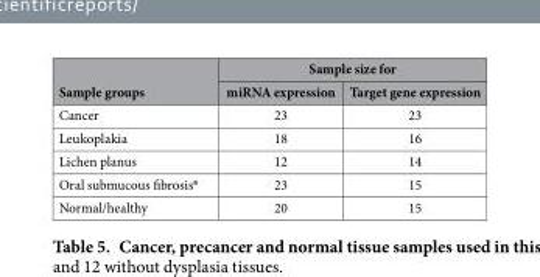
<table><thead><tr><td rowspan="2">Sample groups</td><td colspan="2">Sample size for</td></tr><tr><td>miRNA expression</td><td>Target gene expression</td></tr></thead><tbody><tr><td>Cancer</td><td>23</td><td>23</td></tr><tr><td>Leukoplakia</td><td>18</td><td>16</td></tr><tr><td>Lichen planus</td><td>12</td><td>14</td></tr><tr><td>Oral submucous fibrosis<sup>a</sup></td><td>23</td><td>15</td></tr><tr><td>Normal/healthy</td><td>20</td><td>15</td></tr></tbody></table>